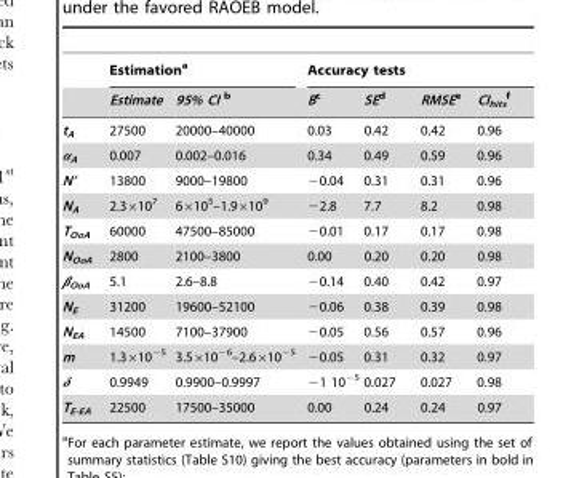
<table><thead><tr><td rowspan="2"></td><td colspan="2">Estimation<sup>a</sup></td><td colspan="4">Accuracy tests</td></tr><tr><td>Estimate</td><td>95% CI b</td><td>Bc</td><td>SEd</td><td>RMSEe</td><td>CI<sub>hits</sub> f</td></tr></thead><tbody><tr><td>t<sub>A</sub></td><td>27500</td><td>20000–40000</td><td>0.03</td><td>0.42</td><td>0.42</td><td>0.96</td></tr><tr><td>α<sub>A</sub></td><td>0.007</td><td>0.002–0.016</td><td>0.34</td><td>0.49</td><td>0.59</td><td>0.96</td></tr><tr><td>N’</td><td>13800</td><td>9000–19800</td><td>−0.04</td><td>0.31</td><td>0.31</td><td>0.96</td></tr><tr><td>N<sub>A</sub></td><td>2.3×10<sup>7</sup></td><td>6×10<sup>5</sup>–1.9×10<sup>9</sup></td><td>−2.8</td><td>7.7</td><td>8.2</td><td>0.98</td></tr><tr><td>T<sub>OoA</sub></td><td>60000</td><td>47500–85000</td><td>−0.01</td><td>0.17</td><td>0.17</td><td>0.98</td></tr><tr><td>N<sub>OoA</sub></td><td>2800</td><td>2100–3800</td><td>0.00</td><td>0.20</td><td>0.20</td><td>0.98</td></tr><tr><td>β<sub>OoA</sub></td><td>5.1</td><td>2.6–8.8</td><td>−0.14</td><td>0.40</td><td>0.42</td><td>0.97</td></tr><tr><td>N<sub>E</sub></td><td>31200</td><td>19600–52100</td><td>−0.06</td><td>0.38</td><td>0.39</td><td>0.98</td></tr><tr><td>N<sub>EA</sub></td><td>14500</td><td>7100–37900</td><td>−0.05</td><td>0.56</td><td>0.57</td><td>0.96</td></tr><tr><td>m</td><td>1.3×10<sup>−5</sup></td><td>3.5×10<sup>−6</sup>–2.6×10<sup>−5</sup></td><td>−0.05</td><td>0.31</td><td>0.32</td><td>0.97</td></tr><tr><td>δ</td><td>0.9949</td><td>0.9900–0.9997</td><td>−1 10<sup>−5</sup></td><td>0.027</td><td>0.027</td><td>0.98</td></tr><tr><td>T<sub>E-EA</sub></td><td>22500</td><td>17500–35000</td><td>0.00</td><td>0.24</td><td>0.24</td><td>0.97</td></tr></tbody></table>